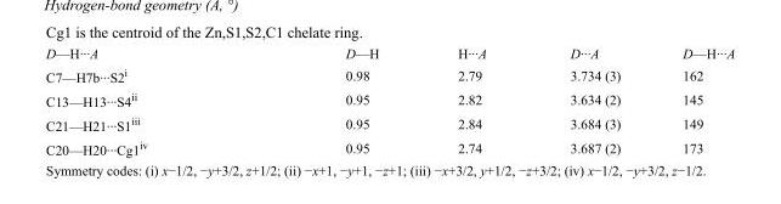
<table><tbody><tr><td>D—H···A</td><td>D—H</td><td>H···A</td><td>D···A</td><td>D—H···A</td></tr><tr><td>C7—H7b···S2<sup>i</sup></td><td>0.98</td><td>2.79</td><td>3.734 (3)</td><td>162</td></tr><tr><td>C13—H13···S4<sup>ii</sup></td><td>0.95</td><td>2.82</td><td>3.634 (2)</td><td>145</td></tr><tr><td>C21—H21···S1<sup>iii</sup></td><td>0.95</td><td>2.84</td><td>3.684 (3)</td><td>149</td></tr><tr><td>C20—H20···Cg1<sup>iv</sup></td><td>0.95</td><td>2.74</td><td>3.687 (2)</td><td>173</td></tr></tbody></table>